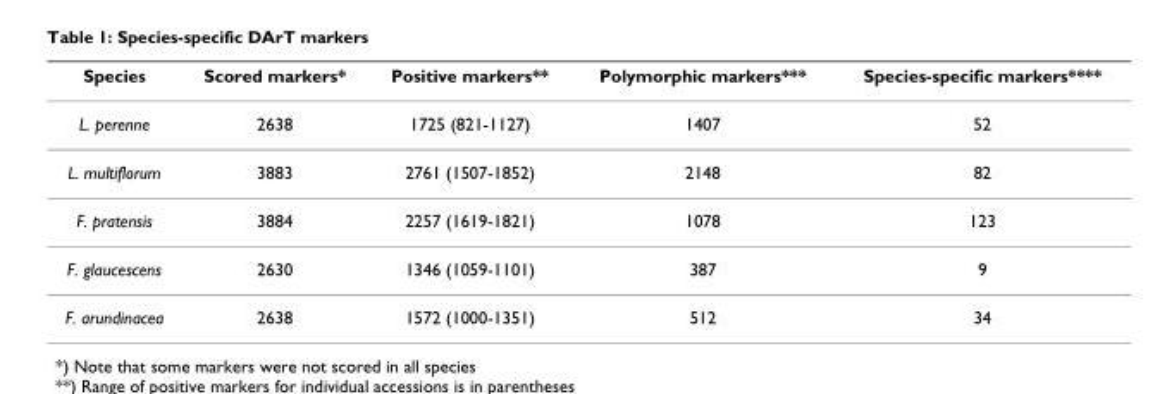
<table><thead><tr><td>Species</td><td>Scored markers*</td><td>Positive markers**</td><td>Polymorphic markers***</td><td>Species-specific markers****</td></tr></thead><tbody><tr><td>L. perenne</td><td>2638</td><td>1725 (821-1127)</td><td>1407</td><td>52</td></tr><tr><td>L. multiflorum</td><td>3883</td><td>2761 (1507-1852)</td><td>2148</td><td>82</td></tr><tr><td>F. pratensis</td><td>3884</td><td>2257 (1619-1821)</td><td>1078</td><td>123</td></tr><tr><td>F. glaucescens</td><td>2630</td><td>1346 (1059-1101)</td><td>387</td><td>9</td></tr><tr><td>F. arundinacea</td><td>2638</td><td>1572 (1000-1351)</td><td>512</td><td>34</td></tr></tbody></table>